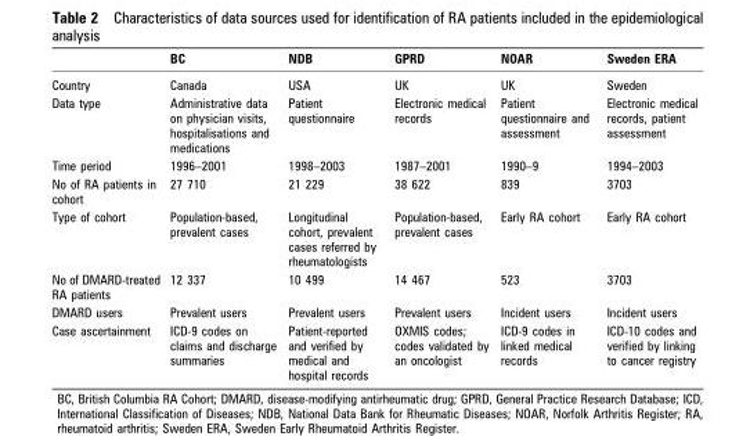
<table><thead><tr><td></td><td>BC</td><td>NDB</td><td>GPRD</td><td>NOAR</td><td>Sweden ERA</td></tr></thead><tbody><tr><td>Country</td><td>Canada</td><td>USA</td><td>UK</td><td>UK</td><td>Sweden</td></tr><tr><td>Data type</td><td>Administrative data on physician visits, hospitalisations and medications</td><td>Patient questionnaire</td><td>Electronic medical records</td><td>Patient questionnaire and assessment</td><td>Electronic medical records, patient assessment</td></tr><tr><td>Time period</td><td>1996–2001</td><td>1998–2003</td><td>1987–2001</td><td>1990–9</td><td>1994–2003</td></tr><tr><td>No of RA patients in cohort</td><td>27 710</td><td>21 229</td><td>38 622</td><td>839</td><td>3703</td></tr><tr><td>Type of cohort</td><td>Population-based, prevalent cases</td><td>Longitudinal cohort, prevalent cases referred by rheumatologists</td><td>Population-based, prevalent cases</td><td>Early RA cohort</td><td>Early RA cohort</td></tr><tr><td>No of DMARD-treated RA patients</td><td>12 337</td><td>10 499</td><td>14 467</td><td>523</td><td>3703</td></tr><tr><td>DMARD users</td><td>Prevalent users</td><td>Prevalent users</td><td>Prevalent users</td><td>Incident users</td><td>Incident users</td></tr><tr><td>Case ascertainment</td><td>ICD-9 codes on claims and discharge summaries</td><td>Patient-reported and verified by medical and hospital records</td><td>OXMIS codes; codes validated by an oncologist</td><td>ICD-9 codes in linked medical records</td><td>ICD-10 codes and verified by linking to cancer registry</td></tr></tbody></table>